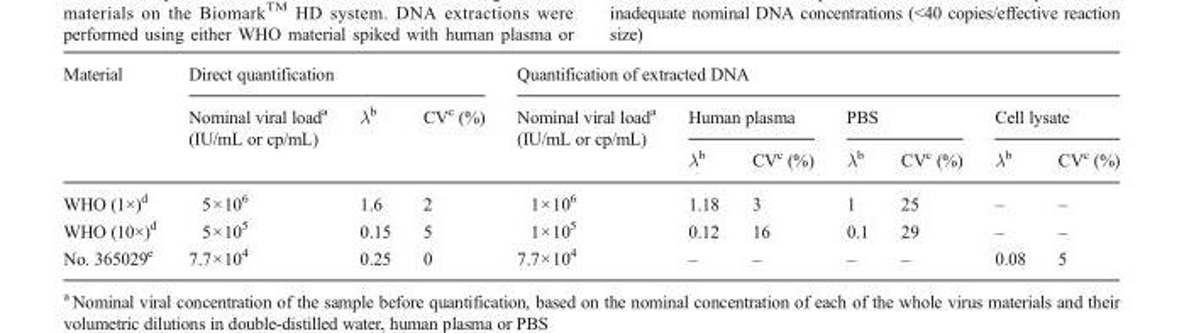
<table><thead><tr><td rowspan="3">Material</td><td colspan="3">Direct quantification</td><td colspan="7">Quantification of extracted DNA</td></tr><tr><td rowspan="2">Nominal viral load<sup>a</sup> (IU/mL or cp/mL)</td><td rowspan="2">λ<sup>b</sup></td><td rowspan="2">CV<sup>c</sup> (%)</td><td rowspan="2">Nominal viral load<sup>a</sup> (IU/mL or cp/mL)</td><td colspan="2">Human plasma</td><td colspan="2">PBS</td><td colspan="2">Cell lysate</td></tr><tr><td>λ<sup>b</sup></td><td>CV<sup>c</sup> (%)</td><td>λ<sup>b</sup></td><td>CV<sup>c</sup> (%)</td><td>λ<sup>b</sup></td><td>CV<sup>c</sup> (%)</td></tr></thead><tbody><tr><td>WHO (1×)<sup>d</sup></td><td>5×10<sup>6</sup></td><td>1.6</td><td>2</td><td>1×10<sup>6</sup></td><td>1.18</td><td>3</td><td>1</td><td>25</td><td>–</td><td>–</td></tr><tr><td>WHO (10×)<sup>d</sup></td><td>5×10<sup>5</sup></td><td>0.15</td><td>5</td><td>1×10<sup>5</sup></td><td>0.12</td><td>16</td><td>0.1</td><td>29</td><td>–</td><td>–</td></tr><tr><td>No. 365029<sup>e</sup></td><td>7.7×10<sup>4</sup></td><td>0.25</td><td>0</td><td>7.7×10<sup>4</sup></td><td>–</td><td>–</td><td>–</td><td>–</td><td>0.08</td><td>5</td></tr></tbody></table>